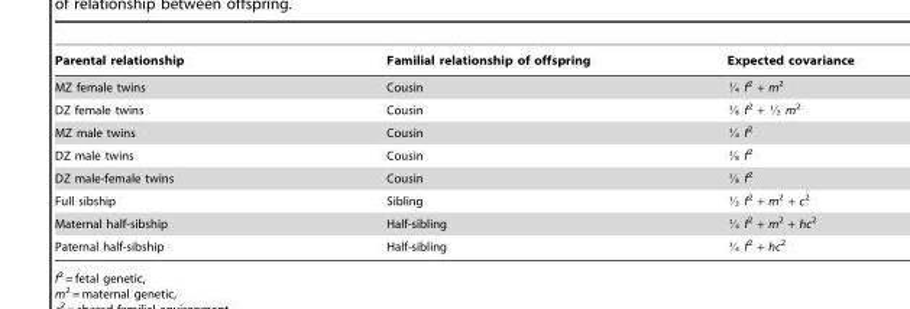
<table><thead><tr><td>Parental relationship</td><td>Familial relationship of offspring</td><td>Expected covariance</td></tr></thead><tbody><tr><td>MZ female twins</td><td>Cousin</td><td>J f2 + m2</td></tr><tr><td>DZ female twins</td><td>Cousin</td><td>F f2 + K m2</td></tr><tr><td>MZ male twins</td><td>Cousin</td><td>J f2</td></tr><tr><td>DZ male twins</td><td>Cousin</td><td>F f2</td></tr><tr><td>DZ male-female twins</td><td>Cousin</td><td>F f2</td></tr><tr><td>Full sibship</td><td>Sibling</td><td>K f2 + m2 + c2</td></tr><tr><td>Maternal half-sibship</td><td>Half-sibling</td><td>J f2 + m2 + hc2</td></tr><tr><td>Paternal half-sibship</td><td>Half-sibling</td><td>J f2 + hc2</td></tr></tbody></table>